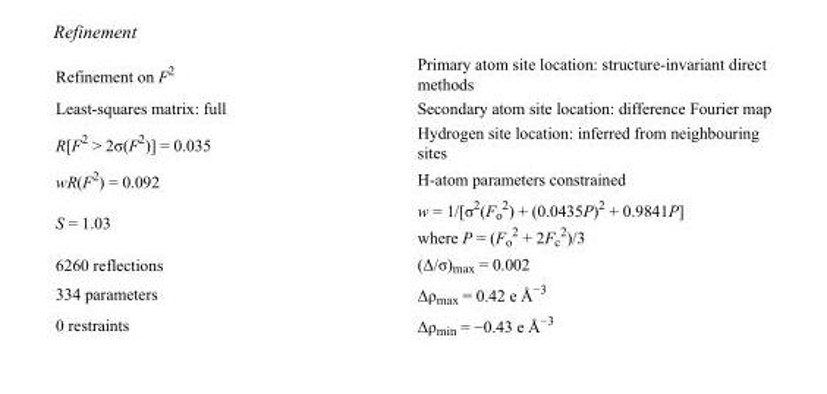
<table><tbody><tr><td>Refinement on F<sup>2</sup></td><td>Primary atom site location: structure-invariant direct methods</td></tr><tr><td>Least-squares matrix: full</td><td>Secondary atom site location: difference Fourier map</td></tr><tr><td>R[F<sup>2</sup> &gt; 2σ(F<sup>2</sup>)] = 0.035</td><td>Hydrogen site location: inferred from neighbouring sites</td></tr><tr><td>wR(F<sup>2</sup>) = 0.092</td><td>H-atom parameters constrained</td></tr><tr><td>S = 1.03</td><td>w = 1/[σ<sup>2</sup>(F<sub>o</sub> <sup>2</sup>) + (0.0435P)<sup>2</sup> + 0.9841P] where P = (F<sub>o</sub> <sup>2</sup> + 2F<sub>c</sub> <sup>2</sup>)/3</td></tr><tr><td>6260 reflections</td><td>(Δ/σ)<sub>max</sub> = 0.002</td></tr><tr><td>334 parameters</td><td>Δρ<sub>max</sub> = 0.42 e Å<sup>−3</sup></td></tr><tr><td>0 restraints</td><td>Δρ<sub>min</sub> = −0.43 e Å<sup>−3</sup></td></tr></tbody></table>